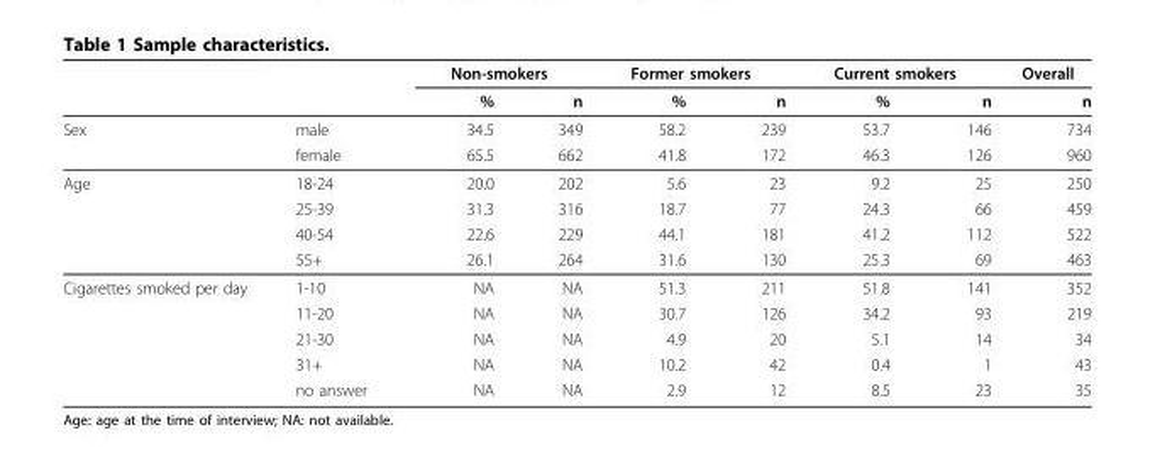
<table><thead><tr><td rowspan="2"></td><td rowspan="2"></td><td colspan="2">Non-smokers</td><td colspan="2">Former smokers</td><td colspan="2">Current smokers</td><td rowspan="2">Overall n</td></tr><tr><td>%</td><td>n</td><td>%</td><td>n</td><td>%</td><td>n</td></tr></thead><tbody><tr><td rowspan="2">Sex</td><td>male</td><td>34.5</td><td>349</td><td>58.2</td><td>239</td><td>53.7</td><td>146</td><td>734</td></tr><tr><td>female</td><td>65.5</td><td>662</td><td>41.8</td><td>172</td><td>46.3</td><td>126</td><td>960</td></tr><tr><td rowspan="4">Age</td><td>18-24</td><td>20.0</td><td>202</td><td>5.6</td><td>23</td><td>9.2</td><td>25</td><td>250</td></tr><tr><td>25-39</td><td>31.3</td><td>316</td><td>18.7</td><td>77</td><td>24.3</td><td>66</td><td>459</td></tr><tr><td>40-54</td><td>22.6</td><td>229</td><td>44.1</td><td>181</td><td>41.2</td><td>112</td><td>522</td></tr><tr><td>55+</td><td>26.1</td><td>264</td><td>31.6</td><td>130</td><td>25.3</td><td>69</td><td>463</td></tr><tr><td rowspan="5">Cigarettes smoked per day</td><td>1-10</td><td>NA</td><td>NA</td><td>51.3</td><td>211</td><td>51.8</td><td>141</td><td>352</td></tr><tr><td>11-20</td><td>NA</td><td>NA</td><td>30.7</td><td>126</td><td>34.2</td><td>93</td><td>219</td></tr><tr><td>21-30</td><td>NA</td><td>NA</td><td>4.9</td><td>20</td><td>5.1</td><td>14</td><td>34</td></tr><tr><td>31+</td><td>NA</td><td>NA</td><td>10.2</td><td>42</td><td>0.4</td><td>1</td><td>43</td></tr><tr><td>no answer</td><td>NA</td><td>NA</td><td>2.9</td><td>12</td><td>8.5</td><td>23</td><td>35</td></tr></tbody></table>